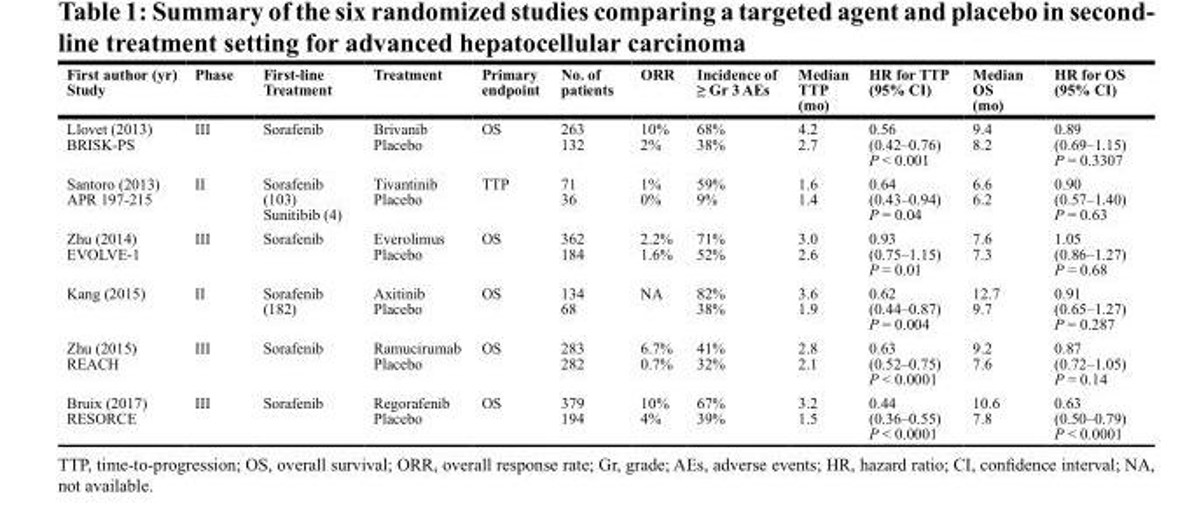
<table><thead><tr><td>First author (yr) Study</td><td>Phase</td><td>First-line Treatment</td><td>Treatment</td><td>Primary endpoint</td><td>No. of patients</td><td>ORR</td><td>Incidence of ≥ Gr 3 AEs</td><td>Median TTP (mo)</td><td>HR for TTP (95% CI)</td><td>Median OS (mo)</td><td>HR for OS (95% CI)</td></tr></thead><tbody><tr><td>Llovet (2013) BRISK-PS</td><td>III</td><td>Sorafenib</td><td>Brivanib Placebo</td><td>OS</td><td>263 132</td><td>10% 2%</td><td>68% 38%</td><td>4.2 2.7</td><td>0.56 (0.42–0.76) P &lt; 0.001</td><td>9.4 8.2</td><td>0.89 (0.69–1.15) P = 0.3307</td></tr><tr><td>Santoro (2013) APR 197-215</td><td>II</td><td>Sorafenib (103) Sunitibib (4)</td><td>Tivantinib Placebo</td><td>TTP</td><td>71 36</td><td>1% 0%</td><td>59% 9%</td><td>1.6 1.4</td><td>0.64 (0.43–0.94) P = 0.04</td><td>6.6 6.2</td><td>0.90 (0.57–1.40) P = 0.63</td></tr><tr><td>Zhu (2014) EVOLVE-1</td><td>III</td><td>Sorafenib</td><td>Everolimus Placebo</td><td>OS</td><td>362 184</td><td>2.2% 1.6%</td><td>71% 52%</td><td>3.0 2.6</td><td>0.93 (0.75–1.15) P = 0.01</td><td>7.6 7.3</td><td>1.05 (0.86–1.27) P = 0.68</td></tr><tr><td>Kang (2015)</td><td>II</td><td>Sorafenib (182)</td><td>Axitinib Placebo</td><td>OS</td><td>134 68</td><td>NA</td><td>82% 38%</td><td>3.6 1.9</td><td>0.62 (0.44–0.87) P = 0.004</td><td>12.7 9.7</td><td>0.91 (0.65–1.27) P = 0.287</td></tr><tr><td>Zhu (2015) REACH</td><td>III</td><td>Sorafenib</td><td>Ramucirumab Placebo</td><td>OS</td><td>283 282</td><td>6.7% 0.7%</td><td>41% 32%</td><td>2.8 2.1</td><td>0.63 (0.52–0.75) P &lt; 0.0001</td><td>9.2 7.6</td><td>0.87 (0.72–1.05) P = 0.14</td></tr><tr><td>Bruix (2017) RESORCE</td><td>III</td><td>Sorafenib</td><td>Regorafenib Placebo</td><td>OS</td><td>379 194</td><td>10% 4%</td><td>67% 39%</td><td>3.2 1.5</td><td>0.44 (0.36–0.55) P &lt; 0.0001</td><td>10.6 7.8</td><td>0.63 (0.50–0.79) P &lt; 0.0001</td></tr></tbody></table>